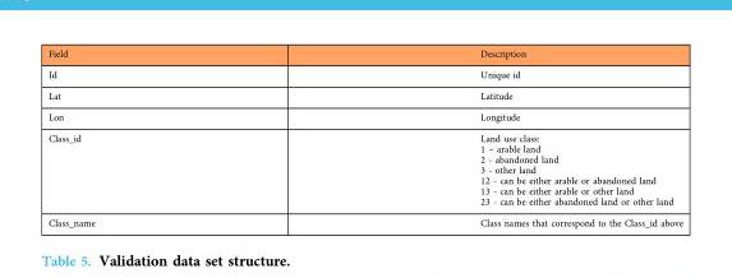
<table><thead><tr><td>Field</td><td>Description</td></tr></thead><tbody><tr><td>Id</td><td>Unique id</td></tr><tr><td>Lat</td><td>Latitude</td></tr><tr><td>Lon</td><td>Longitude</td></tr><tr><td>Class_id</td><td>Land use class: 1 – arable land 2 - abandoned land 3 - other land 12 - can be either arable or abandoned land 13 - can be either arable or other land 23 - can be either abandoned land or other land</td></tr><tr><td>Class_name</td><td>Class names that correspond to the Class_id above</td></tr></tbody></table>